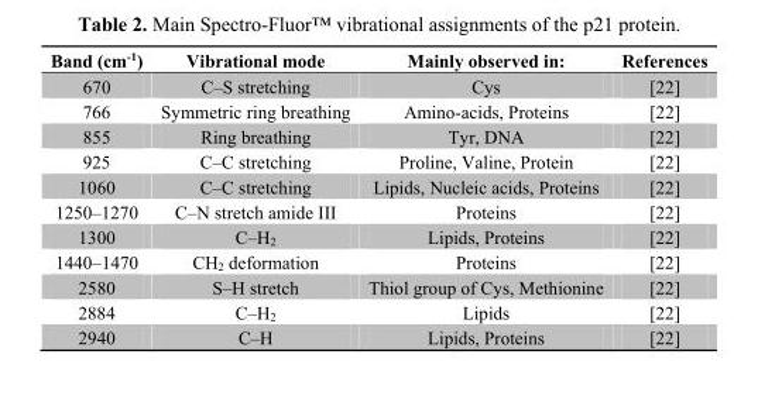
<table><thead><tr><td>Band (cm<sup>-1</sup>)</td><td>Vibrational mode</td><td>Mainly observed in:</td><td>References</td></tr></thead><tbody><tr><td>670</td><td>C–S stretching</td><td>Cys</td><td>[22]</td></tr><tr><td>766</td><td>Symmetric ring breathing</td><td>Amino-acids, Proteins</td><td>[22]</td></tr><tr><td>855</td><td>Ring breathing</td><td>Tyr, DNA</td><td>[22]</td></tr><tr><td>925</td><td>C–C stretching</td><td>Proline, Valine, Protein</td><td>[22]</td></tr><tr><td>1060</td><td>C–C stretching</td><td>Lipids, Nucleic acids, Proteins</td><td>[22]</td></tr><tr><td>1250–1270</td><td>C–N stretch amide III</td><td>Proteins</td><td>[22]</td></tr><tr><td>1300</td><td>C–H<sub>2</sub></td><td>Lipids, Proteins</td><td>[22]</td></tr><tr><td>1440–1470</td><td>CH<sub>2</sub> deformation</td><td>Proteins</td><td>[22]</td></tr><tr><td>2580</td><td>S–H stretch</td><td>Thiol group of Cys, Methionine</td><td>[22]</td></tr><tr><td>2884</td><td>C–H<sub>2</sub></td><td>Lipids</td><td>[22]</td></tr><tr><td>2940</td><td>C–H</td><td>Lipids, Proteins</td><td>[22]</td></tr></tbody></table>